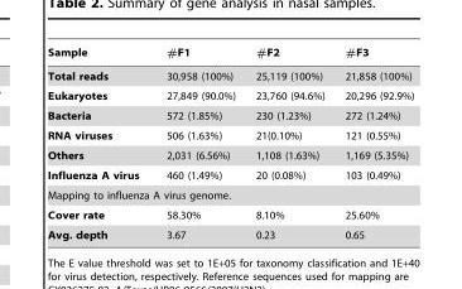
<table><thead><tr><td>Sample</td><td>#F1</td><td>#F2</td><td>#F3</td></tr></thead><tbody><tr><td>Total reads</td><td>30,958 (100%)</td><td>25,119 (100%)</td><td>21,858 (100%)</td></tr><tr><td>Eukaryotes</td><td>27,849 (90.0%)</td><td>23,760 (94.6%)</td><td>20,296 (92.9%)</td></tr><tr><td>Bacteria</td><td>572 (1.85%)</td><td>230 (1.23%)</td><td>272 (1.24%)</td></tr><tr><td>RNA viruses</td><td>506 (1.63%)</td><td>21(0.10%)</td><td>121 (0.55%)</td></tr><tr><td>Others</td><td>2,031 (6.56%)</td><td>1,108 (1.63%)</td><td>1,169 (5.35%)</td></tr><tr><td>Influenza A virus</td><td>460 (1.49%)</td><td>20 (0.08%)</td><td>103 (0.49%)</td></tr><tr><td colspan="4">Mapping to influenza A virus genome.</td></tr><tr><td>Cover rate</td><td>58.30%</td><td>8.10%</td><td>25.60%</td></tr><tr><td>Avg. depth</td><td>3.67</td><td>0.23</td><td>0.65</td></tr></tbody></table>